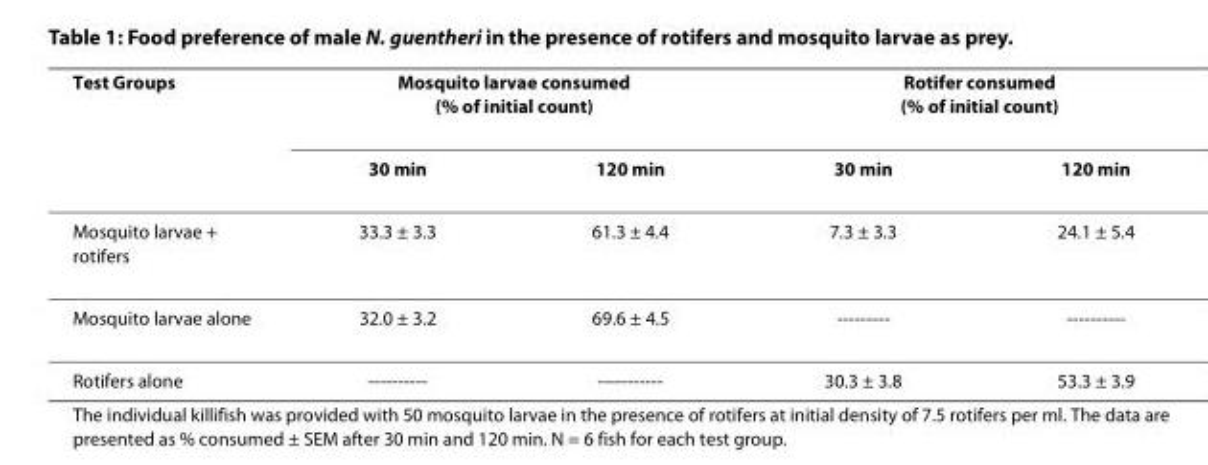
<table><thead><tr><td rowspan="2">Test Groups</td><td colspan="2">Mosquito larvae consumed (% of initial count)</td><td colspan="2">Rotifer consumed (% of initial count)</td></tr><tr><td>30 min</td><td>120 min</td><td>30 min</td><td>120 min</td></tr></thead><tbody><tr><td>Mosquito larvae + rotifers</td><td>33.3 ± 3.3</td><td>61.3 ± 4.4</td><td>7.3 ± 3.3</td><td>24.1 ± 5.4</td></tr><tr><td>Mosquito larvae alone</td><td>32.0 ± 3.2</td><td>69.6 ± 4.5</td><td>---------</td><td>----------</td></tr><tr><td>Rotifers alone</td><td>----------</td><td>-----------</td><td>30.3 ± 3.8</td><td>53.3 ± 3.9</td></tr></tbody></table>